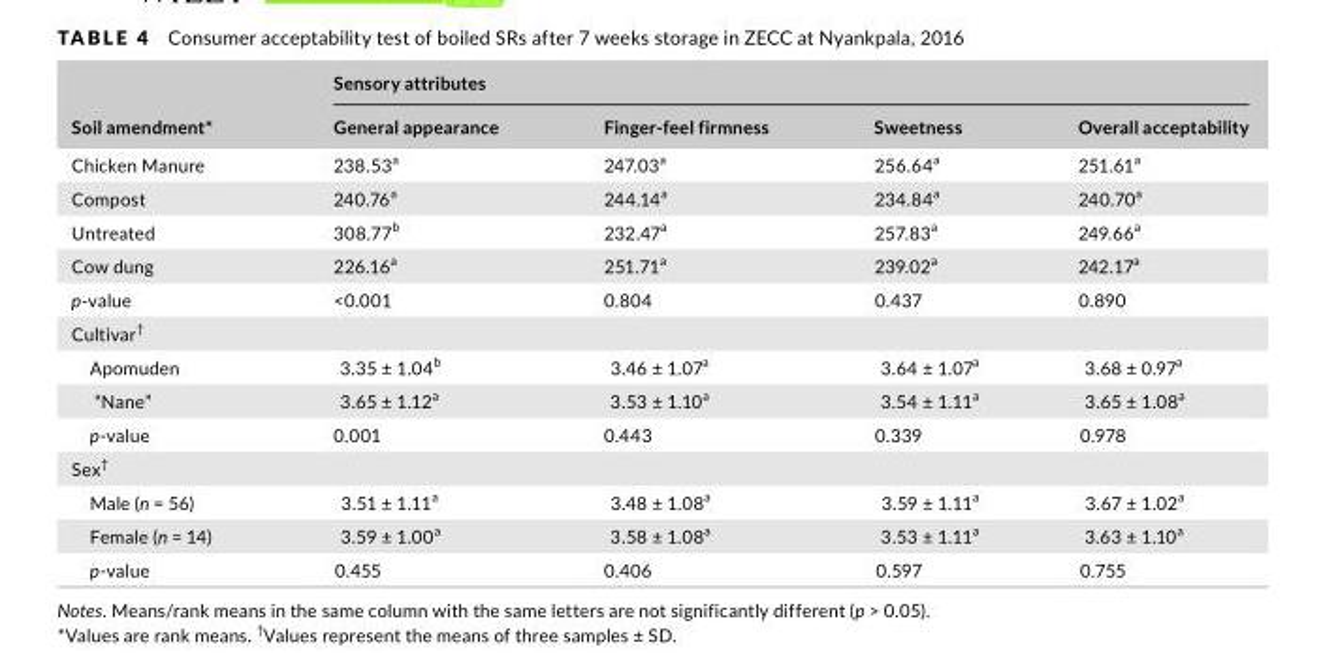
<table><thead><tr><td rowspan="2">Soil amendment*</td><td colspan="4">Sensory attributes</td></tr><tr><td>General appearance</td><td>Finger- feel firmness</td><td>Sweetness</td><td>Overall acceptability</td></tr></thead><tbody><tr><td>Chicken Manure</td><td>238.53<sup>a</sup></td><td>247.03<sup>a</sup></td><td>256.64<sup>a</sup></td><td>251.61<sup>a</sup></td></tr><tr><td>Compost</td><td>240.76<sup>a</sup></td><td>244.14<sup>a</sup></td><td>234.84<sup>a</sup></td><td>240.70<sup>a</sup></td></tr><tr><td>Untreated</td><td>308.77<sup>b</sup></td><td>232.47<sup>a</sup></td><td>257.83<sup>a</sup></td><td>249.66<sup>a</sup></td></tr><tr><td>Cow dung</td><td>226.16<sup>a</sup></td><td>251.71<sup>a</sup></td><td>239.02<sup>a</sup></td><td>242.17<sup>a</sup></td></tr><tr><td>p- value</td><td>&lt;0.001</td><td>0.804</td><td>0.437</td><td>0.890</td></tr><tr><td colspan="5">Cultivar†</td></tr><tr><td>Apomuden</td><td>3.35 ± 1.04<sup>b</sup></td><td>3.46 ± 1.07<sup>a</sup></td><td>3.64 ± 1.07<sup>a</sup></td><td>3.68 ± 0.97<sup>a</sup></td></tr><tr><td>“Nane”</td><td>3.65 ± 1.12<sup>a</sup></td><td>3.53 ± 1.10<sup>a</sup></td><td>3.54 ± 1.11<sup>a</sup></td><td>3.65 ± 1.08<sup>a</sup></td></tr><tr><td>p- value</td><td>0.001</td><td>0.443</td><td>0.339</td><td>0.978</td></tr><tr><td colspan="5">Sex†</td></tr><tr><td>Male (n = 56)</td><td>3.51 ± 1.11<sup>a</sup></td><td>3.48 ± 1.08<sup>a</sup></td><td>3.59 ± 1.11<sup>a</sup></td><td>3.67 ± 1.02<sup>a</sup></td></tr><tr><td>Female (n = 14)</td><td>3.59 ± 1.00<sup>a</sup></td><td>3.58 ± 1.08<sup>a</sup></td><td>3.53 ± 1.11<sup>a</sup></td><td>3.63 ± 1.10<sup>a</sup></td></tr><tr><td>p- value</td><td>0.455</td><td>0.406</td><td>0.597</td><td>0.755</td></tr></tbody></table>